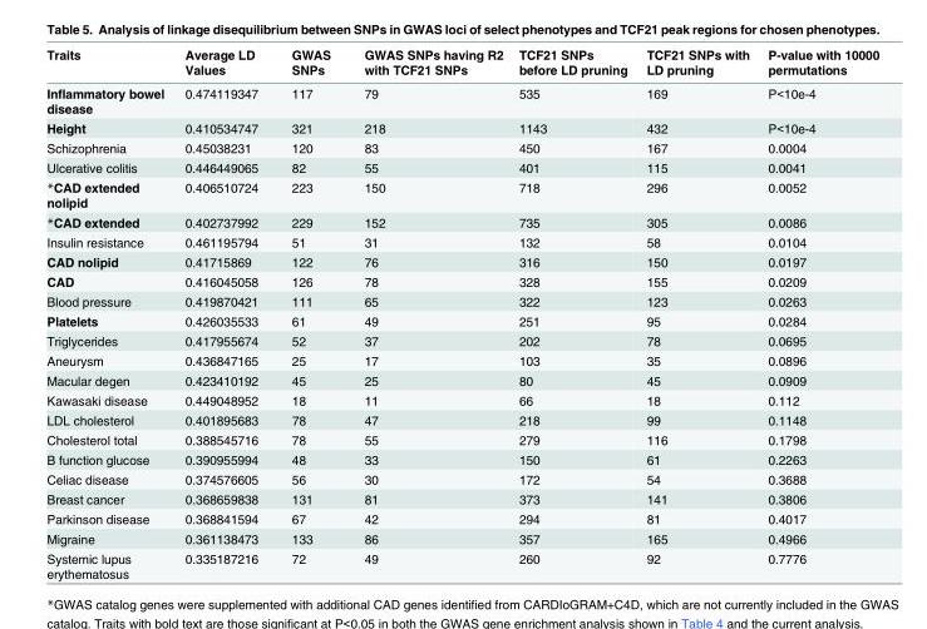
<table><thead><tr><td>Traits</td><td>Average LD Values</td><td>GWAS SNPs</td><td>GWAS SNPs having R2 with TCF21 SNPs</td><td>TCF21 SNPs before LD pruning</td><td>TCF21 SNPs with LD pruning</td><td>P-value with 10000 permutations</td></tr></thead><tbody><tr><td>Inflammatory bowel disease</td><td>0.474119347</td><td>117</td><td>79</td><td>535</td><td>169</td><td>P&lt;10e-4</td></tr><tr><td>Height</td><td>0.410534747</td><td>321</td><td>218</td><td>1143</td><td>432</td><td>P&lt;10e-4</td></tr><tr><td>Schizophrenia</td><td>0.45038231</td><td>120</td><td>83</td><td>450</td><td>167</td><td>0.0004</td></tr><tr><td>Ulcerative colitis</td><td>0.446449065</td><td>82</td><td>55</td><td>401</td><td>115</td><td>0.0041</td></tr><tr><td>*CAD extended nolipid</td><td>0.406510724</td><td>223</td><td>150</td><td>718</td><td>296</td><td>0.0052</td></tr><tr><td>*CAD extended</td><td>0.402737992</td><td>229</td><td>152</td><td>735</td><td>305</td><td>0.0086</td></tr><tr><td>Insulin resistance</td><td>0.461195794</td><td>51</td><td>31</td><td>132</td><td>58</td><td>0.0104</td></tr><tr><td>CAD nolipid</td><td>0.41715869</td><td>122</td><td>76</td><td>316</td><td>150</td><td>0.0197</td></tr><tr><td>CAD</td><td>0.416045058</td><td>126</td><td>78</td><td>328</td><td>155</td><td>0.0209</td></tr><tr><td>Blood pressure</td><td>0.419870421</td><td>111</td><td>65</td><td>322</td><td>123</td><td>0.0263</td></tr><tr><td>Platelets</td><td>0.426035533</td><td>61</td><td>49</td><td>251</td><td>95</td><td>0.0284</td></tr><tr><td>Triglycerides</td><td>0.417955674</td><td>52</td><td>37</td><td>202</td><td>78</td><td>0.0695</td></tr><tr><td>Aneurysm</td><td>0.436847165</td><td>25</td><td>17</td><td>103</td><td>35</td><td>0.0896</td></tr><tr><td>Macular degen</td><td>0.423410192</td><td>45</td><td>25</td><td>80</td><td>45</td><td>0.0909</td></tr><tr><td>Kawasaki disease</td><td>0.449048952</td><td>18</td><td>11</td><td>66</td><td>18</td><td>0.112</td></tr><tr><td>LDL cholesterol</td><td>0.401895683</td><td>78</td><td>47</td><td>218</td><td>99</td><td>0.1148</td></tr><tr><td>Cholesterol total</td><td>0.388545716</td><td>78</td><td>55</td><td>279</td><td>116</td><td>0.1798</td></tr><tr><td>B function glucose</td><td>0.390955994</td><td>48</td><td>33</td><td>150</td><td>61</td><td>0.2263</td></tr><tr><td>Celiac disease</td><td>0.374576605</td><td>56</td><td>30</td><td>172</td><td>54</td><td>0.3688</td></tr><tr><td>Breast cancer</td><td>0.368659838</td><td>131</td><td>81</td><td>373</td><td>141</td><td>0.3806</td></tr><tr><td>Parkinson disease</td><td>0.368841594</td><td>67</td><td>42</td><td>294</td><td>81</td><td>0.4017</td></tr><tr><td>Migraine</td><td>0.361138473</td><td>133</td><td>86</td><td>357</td><td>165</td><td>0.4966</td></tr><tr><td>Systemic lupus erythematosus</td><td>0.335187216</td><td>72</td><td>49</td><td>260</td><td>92</td><td>0.7776</td></tr></tbody></table>